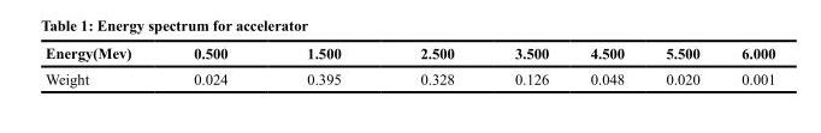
<table><thead><tr><td>Energy(Mev)</td><td>0.500</td><td>1.500</td><td>2.500</td><td>3.500</td><td>4.500</td><td>5.500</td><td>6.000</td></tr></thead><tbody><tr><td>Weight</td><td>0.024</td><td>0.395</td><td>0.328</td><td>0.126</td><td>0.048</td><td>0.020</td><td>0.001</td></tr></tbody></table>